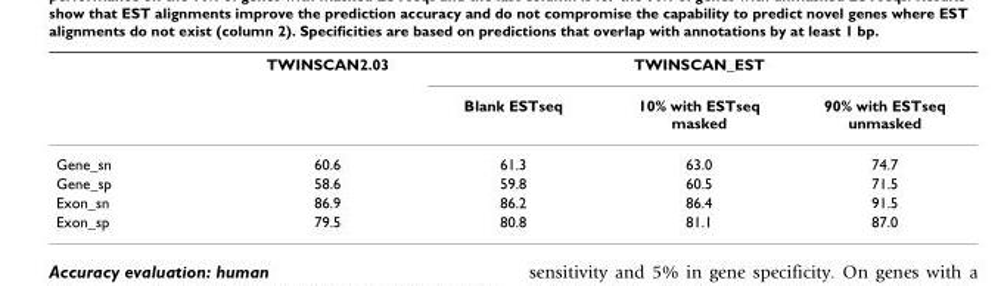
<table><thead><tr><td rowspan="2"></td><td rowspan="2">TWINSCAN2.03</td><td colspan="3">TWINSCAN_EST</td></tr><tr><td>Blank ESTseq</td><td>10% with ESTseq masked</td><td>90% with ESTseq unmasked</td></tr></thead><tbody><tr><td>Gene_sn</td><td>60.6</td><td>61.3</td><td>63.0</td><td>74.7</td></tr><tr><td>Gene_sp</td><td>58.6</td><td>59.8</td><td>60.5</td><td>71.5</td></tr><tr><td>Exon_sn</td><td>86.9</td><td>86.2</td><td>86.4</td><td>91.5</td></tr><tr><td>Exon_sp</td><td>79.5</td><td>80.8</td><td>81.1</td><td>87.0</td></tr></tbody></table>